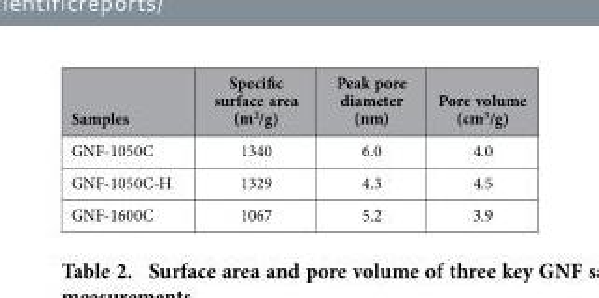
<table><thead><tr><td>Samples</td><td>Specific surface area (m<sup>2</sup>/g)</td><td>Peak pore diameter (nm)</td><td>Pore volume (cm<sup>3</sup>/g)</td></tr></thead><tbody><tr><td>GNF-1050C</td><td>1340</td><td>6.0</td><td>4.0</td></tr><tr><td>GNF-1050C-H</td><td>1329</td><td>4.3</td><td>4.5</td></tr><tr><td>GNF-1600C</td><td>1067</td><td>5.2</td><td>3.9</td></tr></tbody></table>